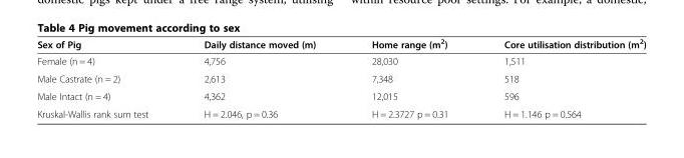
<table><thead><tr><td>Sex of Pig</td><td>Daily distance moved (m)</td><td>Home range (m<sup>2</sup>)</td><td>Core utilisation distribution (m<sup>2</sup>)</td></tr></thead><tbody><tr><td>Female (n = 4)</td><td>4,756</td><td>28,030</td><td>1,511</td></tr><tr><td>Male Castrate (n = 2)</td><td>2,613</td><td>7,348</td><td>518</td></tr><tr><td>Male Intact (n = 4)</td><td>4,362</td><td>12,015</td><td>596</td></tr><tr><td>Kruskal-Wallis rank sum test</td><td>H = 2.046, p = 0.36</td><td>H = 2.3727 p = 0.31</td><td>H = 1.146 p = 0.564</td></tr></tbody></table>